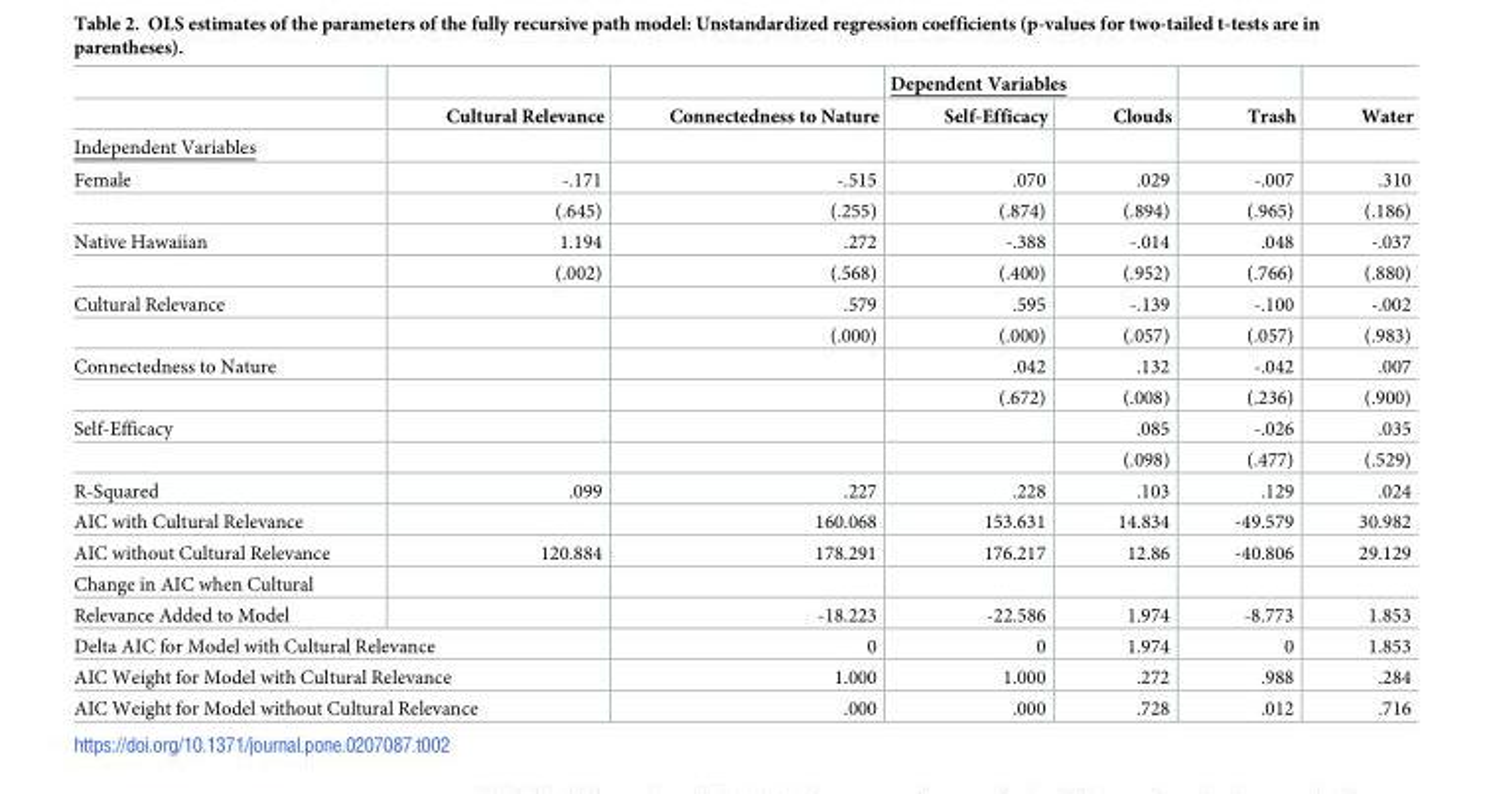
<table><thead><tr><td rowspan="2"></td><td rowspan="2">Cultural Relevance</td><td rowspan="2">Connectedness to Nature</td><td colspan="2">Dependent Variables</td><td rowspan="2">Trash</td><td rowspan="2">Water</td></tr><tr><td>Self-Efficacy</td><td>Clouds</td></tr></thead><tbody><tr><td colspan="7">Independent Variables</td></tr><tr><td rowspan="2">Female</td><td>-.171</td><td>-.515</td><td>.070</td><td>.029</td><td>-.007</td><td>.310</td></tr><tr><td>(.645)</td><td>(.255)</td><td>(.874)</td><td>(.894)</td><td>(.965)</td><td>(.186)</td></tr><tr><td rowspan="2">Native Hawaiian</td><td>1.194</td><td>.272</td><td>-.388</td><td>-.014</td><td>.048</td><td>-.037</td></tr><tr><td>(.002)</td><td>(.568)</td><td>(.400)</td><td>(.952)</td><td>(.766)</td><td>(.880)</td></tr><tr><td rowspan="2">Cultural Relevance</td><td></td><td>.579</td><td>.595</td><td>-.139</td><td>-.100</td><td>-.002</td></tr><tr><td></td><td>(.000)</td><td>(.000)</td><td>(.057)</td><td>(.057)</td><td>(.983)</td></tr><tr><td rowspan="2">Connectedness to Nature</td><td></td><td></td><td>.042</td><td>.132</td><td>-.042</td><td>.007</td></tr><tr><td></td><td></td><td>(.672)</td><td>(.008)</td><td>(.236)</td><td>(.900)</td></tr><tr><td rowspan="2">Self-Efficacy</td><td></td><td></td><td></td><td>.085</td><td>-.026</td><td>.035</td></tr><tr><td></td><td></td><td></td><td>(.098)</td><td>(.477)</td><td>(.529)</td></tr><tr><td>R-Squared</td><td>.099</td><td>.227</td><td>.228</td><td>.103</td><td>.129</td><td>.024</td></tr><tr><td>AIC with Cultural Relevance</td><td></td><td>160.068</td><td>153.631</td><td>14.834</td><td>-49.579</td><td>30.982</td></tr><tr><td>AIC without Cultural Relevance</td><td>120.884</td><td>178.291</td><td>176.217</td><td>12.86</td><td>-40.806</td><td>29.129</td></tr><tr><td colspan="7">Change in AIC when Cultural</td></tr><tr><td>Relevance Added to Model</td><td></td><td>-18.223</td><td>-22.586</td><td>1.974</td><td>-8.773</td><td>1.853</td></tr><tr><td colspan="2">Delta AIC for Model with Cultural Relevance</td><td>0</td><td>0</td><td>1.974</td><td>0</td><td>1.853</td></tr><tr><td colspan="2">AIC Weight for Model with Cultural Relevance</td><td>1.000</td><td>1.000</td><td>.272</td><td>.988</td><td>.284</td></tr><tr><td colspan="2">AIC Weight for Model without Cultural Relevance</td><td>.000</td><td>.000</td><td>.728</td><td>.012</td><td>.716</td></tr></tbody></table>